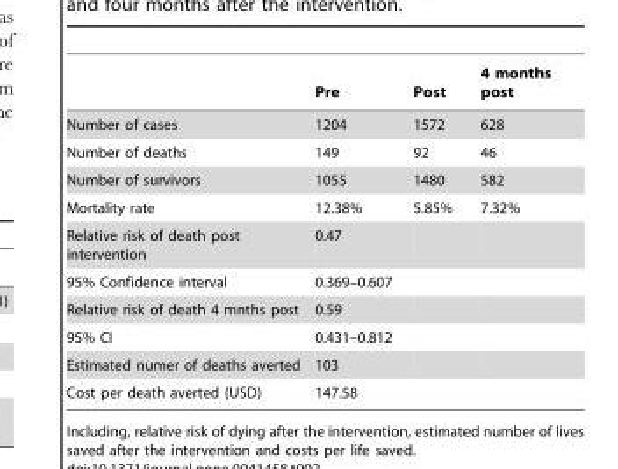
<table><thead><tr><td></td><td>Pre</td><td>Post</td><td>4 months post</td></tr></thead><tbody><tr><td>Number of cases</td><td>1204</td><td>1572</td><td>628</td></tr><tr><td>Number of deaths</td><td>149</td><td>92</td><td>46</td></tr><tr><td>Number of survivors</td><td>1055</td><td>1480</td><td>582</td></tr><tr><td>Mortality rate</td><td>12.38%</td><td>5.85%</td><td>7.32%</td></tr><tr><td>Relative risk of death post intervention</td><td>0.47</td><td></td><td></td></tr><tr><td>95% Confidence interval</td><td>0.369–0.607</td><td></td><td></td></tr><tr><td>Relative risk of death 4 mnths post</td><td>0.59</td><td></td><td></td></tr><tr><td>95% CI</td><td>0.431–0.812</td><td></td><td></td></tr><tr><td>Estimated numer of deaths averted</td><td>103</td><td></td><td></td></tr><tr><td>Cost per death averted (USD)</td><td>147.58</td><td></td><td></td></tr></tbody></table>